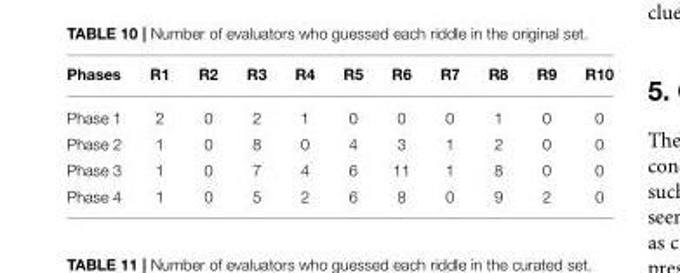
<table><thead><tr><td>Phases</td><td>R1</td><td>R2</td><td>R3</td><td>R4</td><td>R5</td><td>R6</td><td>R7</td><td>R8</td><td>R9</td><td>R10</td></tr></thead><tbody><tr><td>Phase 1</td><td>2</td><td>0</td><td>2</td><td>1</td><td>0</td><td>0</td><td>0</td><td>1</td><td>0</td><td>0</td></tr><tr><td>Phase 2</td><td>1</td><td>0</td><td>8</td><td>0</td><td>4</td><td>3</td><td>1</td><td>2</td><td>0</td><td>0</td></tr><tr><td>Phase 3</td><td>1</td><td>0</td><td>7</td><td>4</td><td>6</td><td>11</td><td>1</td><td>8</td><td>0</td><td>0</td></tr><tr><td>Phase 4</td><td>1</td><td>0</td><td>5</td><td>2</td><td>6</td><td>8</td><td>0</td><td>9</td><td>2</td><td>0</td></tr></tbody></table>